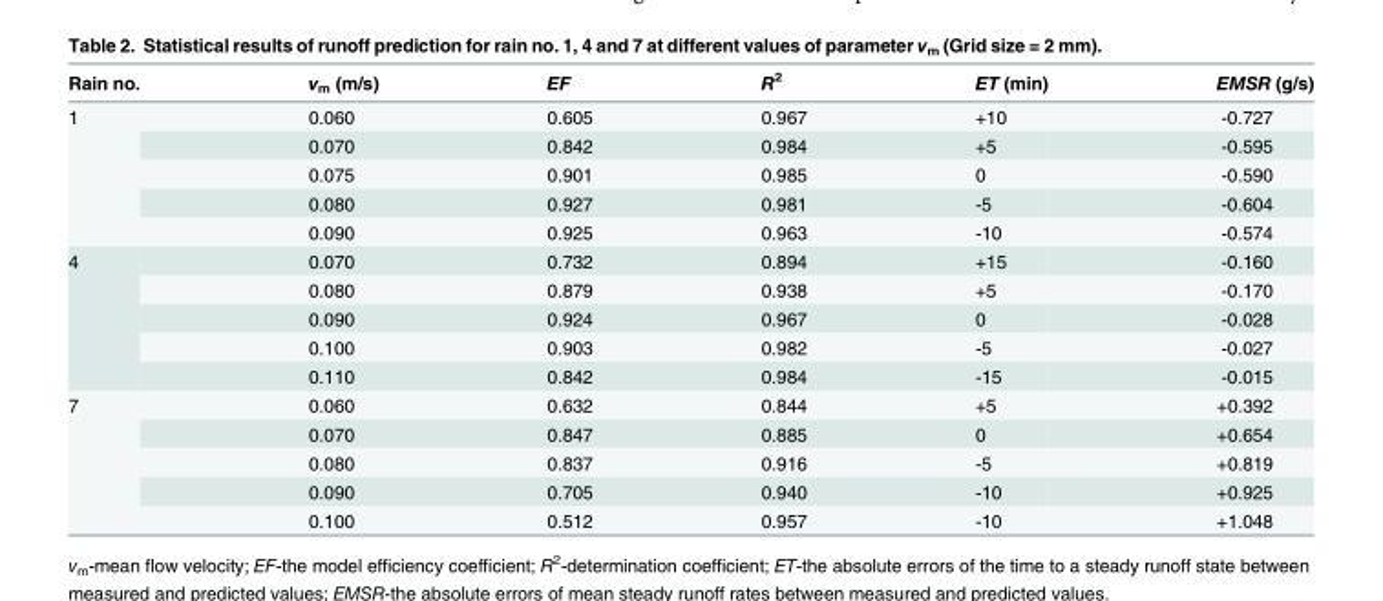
<table><thead><tr><td>Rain no.</td><td>v<sub>m</sub> (m/s)</td><td>EF</td><td>R<sup>2</sup></td><td>ET (min)</td><td>EMSR (g/s)</td></tr></thead><tbody><tr><td rowspan="5">1</td><td>0.060</td><td>0.605</td><td>0.967</td><td>+10</td><td>-0.727</td></tr><tr><td>0.070</td><td>0.842</td><td>0.984</td><td>+5</td><td>-0.595</td></tr><tr><td>0.075</td><td>0.901</td><td>0.985</td><td>0</td><td>-0.590</td></tr><tr><td>0.080</td><td>0.927</td><td>0.981</td><td>-5</td><td>-0.604</td></tr><tr><td>0.090</td><td>0.925</td><td>0.963</td><td>-10</td><td>-0.574</td></tr><tr><td rowspan="5">4</td><td>0.070</td><td>0.732</td><td>0.894</td><td>+15</td><td>-0.160</td></tr><tr><td>0.080</td><td>0.879</td><td>0.938</td><td>+5</td><td>-0.170</td></tr><tr><td>0.090</td><td>0.924</td><td>0.967</td><td>0</td><td>-0.028</td></tr><tr><td>0.100</td><td>0.903</td><td>0.982</td><td>-5</td><td>-0.027</td></tr><tr><td>0.110</td><td>0.842</td><td>0.984</td><td>-15</td><td>-0.015</td></tr><tr><td rowspan="5">7</td><td>0.060</td><td>0.632</td><td>0.844</td><td>+5</td><td>+0.392</td></tr><tr><td>0.070</td><td>0.847</td><td>0.885</td><td>0</td><td>+0.654</td></tr><tr><td>0.080</td><td>0.837</td><td>0.916</td><td>-5</td><td>+0.819</td></tr><tr><td>0.090</td><td>0.705</td><td>0.940</td><td>-10</td><td>+0.925</td></tr><tr><td>0.100</td><td>0.512</td><td>0.957</td><td>-10</td><td>+1.048</td></tr></tbody></table>